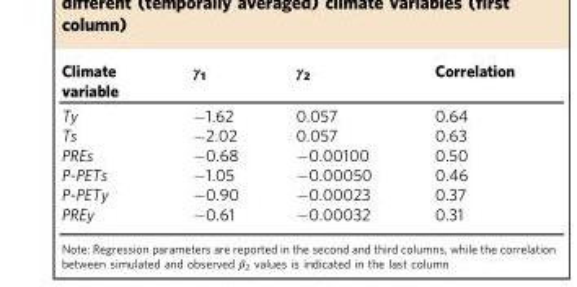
<table><thead><tr><td>Climate variable</td><td>γ<sub>1</sub></td><td>γ<sub>2</sub></td><td>Correlation</td></tr></thead><tbody><tr><td>Ty</td><td>−1.62</td><td>0.057</td><td>0.64</td></tr><tr><td>Ts</td><td>−2.02</td><td>0.057</td><td>0.63</td></tr><tr><td>PREs</td><td>−0.68</td><td>−0.00100</td><td>0.50</td></tr><tr><td>P-PETs</td><td>−1.05</td><td>−0.00050</td><td>0.46</td></tr><tr><td>P-PETy</td><td>−0.90</td><td>−0.00023</td><td>0.37</td></tr><tr><td>PREy</td><td>−0.61</td><td>−0.00032</td><td>0.31</td></tr></tbody></table>